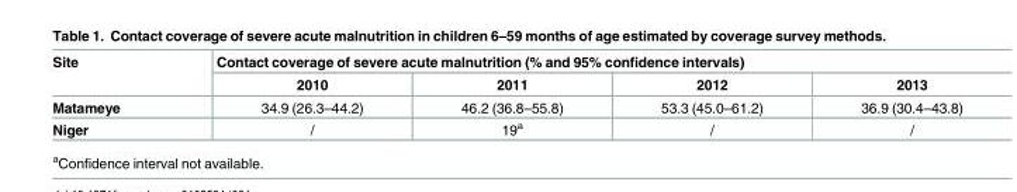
<table><thead><tr><td rowspan="2">Site</td><td colspan="4">Contact coverage of severe acute malnutrition (% and 95% confidence intervals)</td></tr><tr><td>2010</td><td>2011</td><td>2012</td><td>2013</td></tr></thead><tbody><tr><td>Matameye</td><td>34.9 (26.3–44.2)</td><td>46.2 (36.8–55.8)</td><td>53.3 (45.0–61.2)</td><td>36.9 (30.4–43.8)</td></tr><tr><td>Niger</td><td>/</td><td>19<sup>a</sup></td><td>/</td><td>/</td></tr></tbody></table>